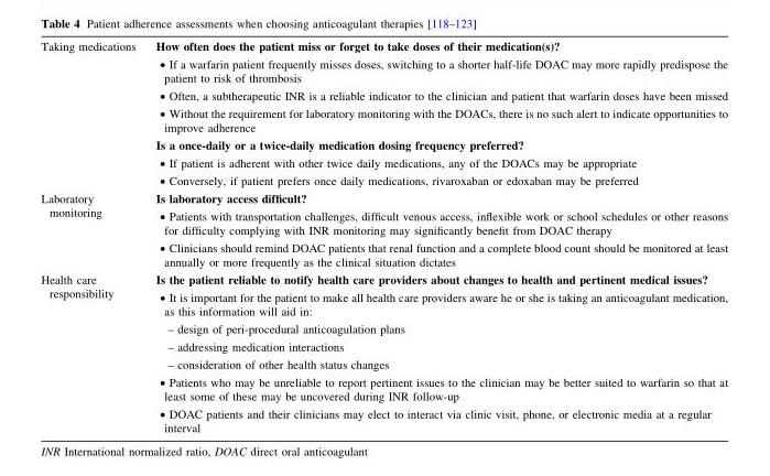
<table><tbody><tr><td rowspan="2">Taking medications</td><td>How often does the patient miss or forget to take doses of their medication(s)? • If a warfarin patient frequently misses doses, switching to a shorter half-life DOAC may more rapidly predispose the patient to risk of thrombosis • Often, a subtherapeutic INR is a reliable indicator to the clinician and patient that warfarin doses have been missed • Without the requirement for laboratory monitoring with the DOACs, there is no such alert to indicate opportunities to improve adherence</td></tr><tr><td>Is a once-daily or a twice-daily medication dosing frequency preferred? • If patient is adherent with other twice daily medications, any of the DOACs may be appropriate • Conversely, if patient prefers once daily medications, rivaroxaban or edoxaban may be preferred</td></tr><tr><td>Laboratory monitoring</td><td>Is laboratory access difficult? • Patients with transportation challenges, difficult venous access, inflexible work or school schedules or other reasons for difficulty complying with INR monitoring may significantly benefit from DOAC therapy • Clinicians should remind DOAC patients that renal function and a complete blood count should be monitored at least annually or more frequently as the clinical situation dictates</td></tr><tr><td>Health care responsibility</td><td>Is the patient reliable to notify health care providers about changes to health and pertinent medical issues? • It is important for the patient to make all health care providers aware he or she is taking an anticoagulant medication, as this information will aid in: – design of peri-procedural anticoagulation plans – addressing medication interactions – consideration of other health status changes • Patients who may be unreliable to report pertinent issues to the clinician may be better suited to warfarin so that at least some of these may be uncovered during INR follow-up • DOAC patients and their clinicians may elect to interact via clinic visit, phone, or electronic media at a regular interval</td></tr></tbody></table>